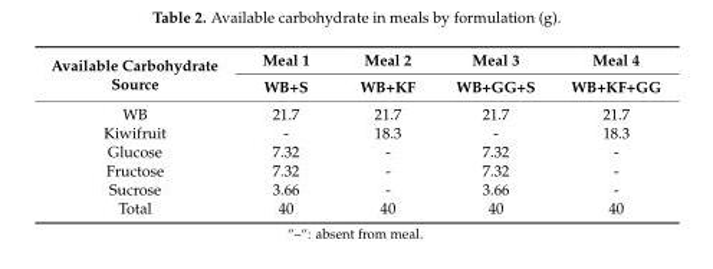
<table><thead><tr><td rowspan="2">Available Carbohydrate Source</td><td rowspan="2">Meal 1 WB+S</td><td rowspan="2">Meal 2 WB+KF</td><td rowspan="2">Meal 3 WB+GG+S</td><td rowspan="2">Meal 4 WB+KF+GG</td></tr><tr></tr></thead><tbody><tr><td>WB</td><td>21.7</td><td>21.7</td><td>21.7</td><td>21.7</td></tr><tr><td>Kiwifruit</td><td>-</td><td>18.3</td><td>-</td><td>18.3</td></tr><tr><td>Glucose</td><td>7.32</td><td>-</td><td>7.32</td><td>-</td></tr><tr><td>Fructose</td><td>7.32</td><td>-</td><td>7.32</td><td>-</td></tr><tr><td>Sucrose</td><td>3.66</td><td>-</td><td>3.66</td><td>-</td></tr><tr><td>Total</td><td>40</td><td>40</td><td>40</td><td>40</td></tr></tbody></table>